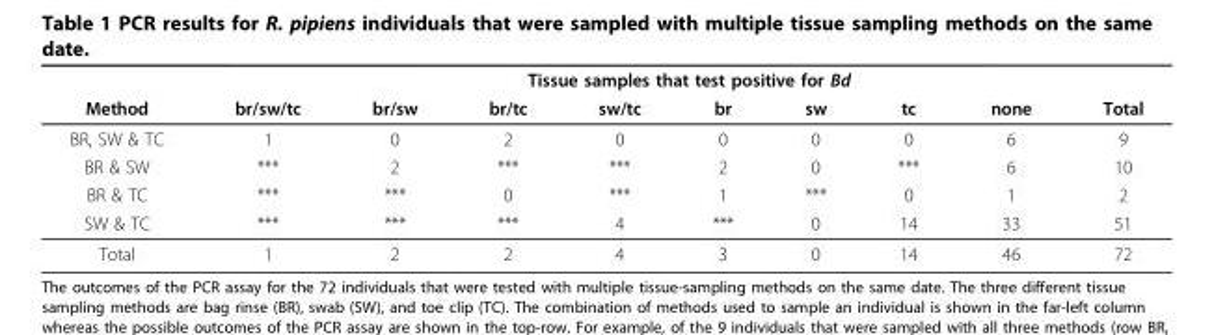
<table><thead><tr><td rowspan="2">Method</td><td colspan="9">Tissue samples that test positive for Bd</td></tr><tr><td>br/sw/tc</td><td>br/sw</td><td>br/tc</td><td>sw/tc</td><td>br</td><td>sw</td><td>tc</td><td>none</td><td>Total</td></tr></thead><tbody><tr><td>BR, SW &amp; TC</td><td>1</td><td>0</td><td>2</td><td>0</td><td>0</td><td>0</td><td>0</td><td>6</td><td>9</td></tr><tr><td>BR &amp; SW</td><td>***</td><td>2</td><td>***</td><td>***</td><td>2</td><td>0</td><td>***</td><td>6</td><td>10</td></tr><tr><td>BR &amp; TC</td><td>***</td><td>***</td><td>0</td><td>***</td><td>1</td><td>***</td><td>0</td><td>1</td><td>2</td></tr><tr><td>SW &amp; TC</td><td>***</td><td>***</td><td>***</td><td>4</td><td>***</td><td>0</td><td>14</td><td>33</td><td>51</td></tr><tr><td>Total</td><td>1</td><td>2</td><td>2</td><td>4</td><td>3</td><td>0</td><td>14</td><td>46</td><td>72</td></tr></tbody></table>